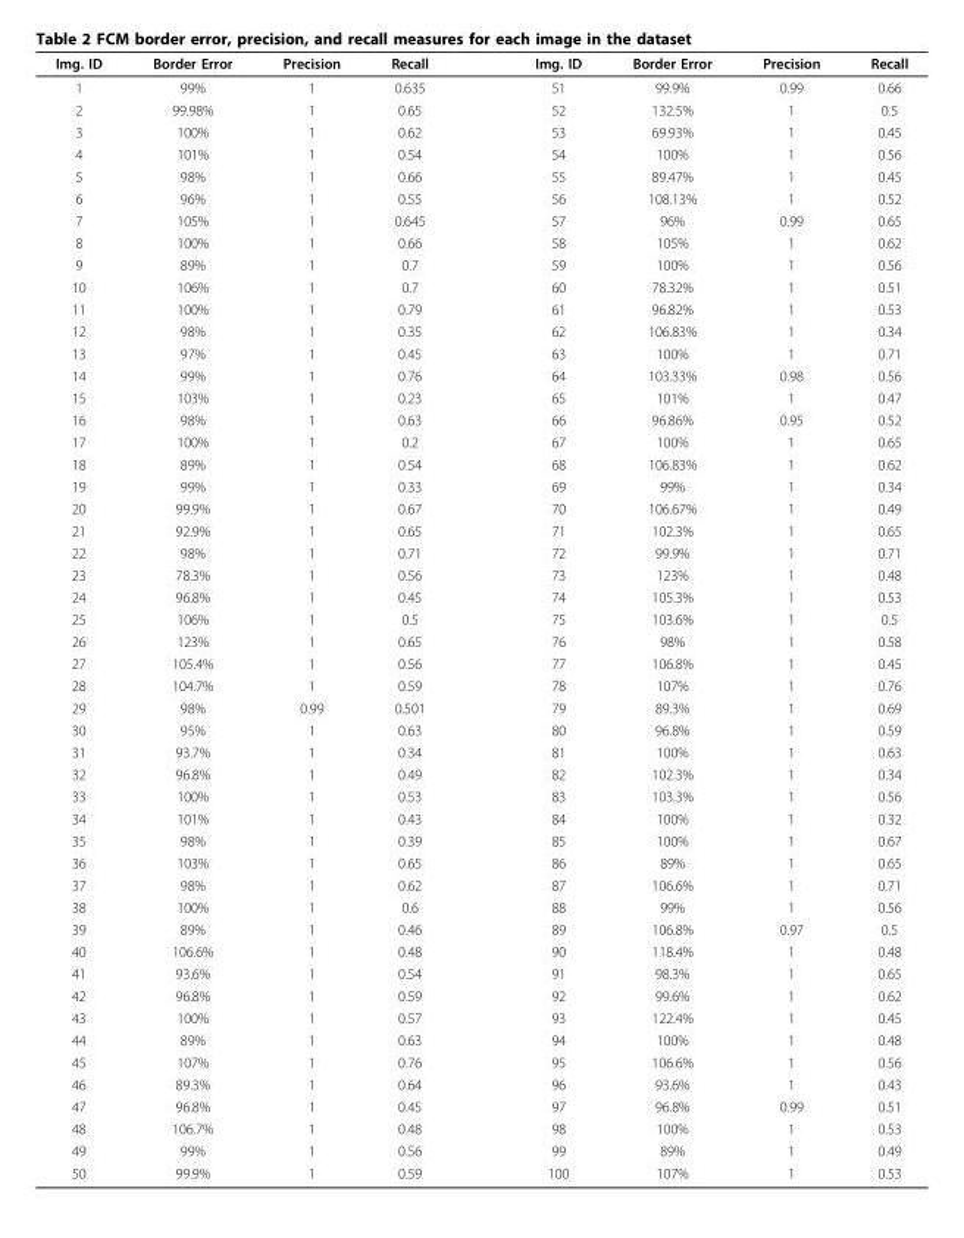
<table><thead><tr><td>Img. ID</td><td>Border Error</td><td>Precision</td><td>Recall</td><td>Img. ID</td><td>Border Error</td><td>Precision</td><td>Recall</td></tr></thead><tbody><tr><td>1</td><td>99%</td><td>1</td><td>0.635</td><td>51</td><td>99.9%</td><td>0.99</td><td>0.66</td></tr><tr><td>2</td><td>99.98%</td><td>1</td><td>0.65</td><td>52</td><td>132.5%</td><td>1</td><td>0.5</td></tr><tr><td>3</td><td>100%</td><td>1</td><td>0.62</td><td>53</td><td>69.93%</td><td>1</td><td>0.45</td></tr><tr><td>4</td><td>101%</td><td>1</td><td>0.54</td><td>54</td><td>100%</td><td>1</td><td>0.56</td></tr><tr><td>5</td><td>98%</td><td>1</td><td>0.66</td><td>55</td><td>89.47%</td><td>1</td><td>0.45</td></tr><tr><td>6</td><td>96%</td><td>1</td><td>0.55</td><td>56</td><td>108.13%</td><td>1</td><td>0.52</td></tr><tr><td>7</td><td>105%</td><td>1</td><td>0.645</td><td>57</td><td>96%</td><td>0.99</td><td>0.65</td></tr><tr><td>8</td><td>100%</td><td>1</td><td>0.66</td><td>58</td><td>105%</td><td>1</td><td>0.62</td></tr><tr><td>9</td><td>89%</td><td>1</td><td>0.7</td><td>59</td><td>100%</td><td>1</td><td>0.56</td></tr><tr><td>10</td><td>106%</td><td>1</td><td>0.7</td><td>60</td><td>78.32%</td><td>1</td><td>0.51</td></tr><tr><td>11</td><td>100%</td><td>1</td><td>0.79</td><td>61</td><td>96.82%</td><td>1</td><td>0.53</td></tr><tr><td>12</td><td>98%</td><td>1</td><td>0.35</td><td>62</td><td>106.83%</td><td>1</td><td>0.34</td></tr><tr><td>13</td><td>97%</td><td>1</td><td>0.45</td><td>63</td><td>100%</td><td>1</td><td>0.71</td></tr><tr><td>14</td><td>99%</td><td>1</td><td>0.76</td><td>64</td><td>103.33%</td><td>0.98</td><td>0.56</td></tr><tr><td>15</td><td>103%</td><td>1</td><td>0.23</td><td>65</td><td>101%</td><td>1</td><td>0.47</td></tr><tr><td>16</td><td>98%</td><td>1</td><td>0.63</td><td>66</td><td>96.86%</td><td>0.95</td><td>0.52</td></tr><tr><td>17</td><td>100%</td><td>1</td><td>0.2</td><td>67</td><td>100%</td><td>1</td><td>0.65</td></tr><tr><td>18</td><td>89%</td><td>1</td><td>0.54</td><td>68</td><td>106.83%</td><td>1</td><td>0.62</td></tr><tr><td>19</td><td>99%</td><td>1</td><td>0.33</td><td>69</td><td>99%</td><td>1</td><td>0.34</td></tr><tr><td>20</td><td>99.9%</td><td>1</td><td>0.67</td><td>70</td><td>106.67%</td><td>1</td><td>0.49</td></tr><tr><td>21</td><td>92.9%</td><td>1</td><td>0.65</td><td>71</td><td>102.3%</td><td>1</td><td>0.65</td></tr><tr><td>22</td><td>98%</td><td>1</td><td>0.71</td><td>72</td><td>99.9%</td><td>1</td><td>0.71</td></tr><tr><td>23</td><td>78.3%</td><td>1</td><td>0.56</td><td>73</td><td>123%</td><td>1</td><td>0.48</td></tr><tr><td>24</td><td>96.8%</td><td>1</td><td>0.45</td><td>74</td><td>105.3%</td><td>1</td><td>0.53</td></tr><tr><td>25</td><td>106%</td><td>1</td><td>0.5</td><td>75</td><td>103.6%</td><td>1</td><td>0.5</td></tr><tr><td>26</td><td>123%</td><td>1</td><td>0.65</td><td>76</td><td>98%</td><td>1</td><td>0.58</td></tr><tr><td>27</td><td>105.4%</td><td>1</td><td>0.56</td><td>77</td><td>106.8%</td><td>1</td><td>0.45</td></tr><tr><td>28</td><td>104.7%</td><td>1</td><td>0.59</td><td>78</td><td>107%</td><td>1</td><td>0.76</td></tr><tr><td>29</td><td>98%</td><td>0.99</td><td>0.501</td><td>79</td><td>89.3%</td><td>1</td><td>0.69</td></tr><tr><td>30</td><td>95%</td><td>1</td><td>0.63</td><td>80</td><td>96.8%</td><td>1</td><td>0.59</td></tr><tr><td>31</td><td>93.7%</td><td>1</td><td>0.34</td><td>81</td><td>100%</td><td>1</td><td>0.63</td></tr><tr><td>32</td><td>96.8%</td><td>1</td><td>0.49</td><td>82</td><td>102.3%</td><td>1</td><td>0.34</td></tr><tr><td>33</td><td>100%</td><td>1</td><td>0.53</td><td>83</td><td>103.3%</td><td>1</td><td>0.56</td></tr><tr><td>34</td><td>101%</td><td>1</td><td>0.43</td><td>84</td><td>100%</td><td>1</td><td>0.32</td></tr><tr><td>35</td><td>98%</td><td>1</td><td>0.39</td><td>85</td><td>100%</td><td>1</td><td>0.67</td></tr><tr><td>36</td><td>103%</td><td>1</td><td>0.65</td><td>86</td><td>89%</td><td>1</td><td>0.65</td></tr><tr><td>37</td><td>98%</td><td>1</td><td>0.62</td><td>87</td><td>106.6%</td><td>1</td><td>0.71</td></tr><tr><td>38</td><td>100%</td><td>1</td><td>0.6</td><td>88</td><td>99%</td><td>1</td><td>0.56</td></tr><tr><td>39</td><td>89%</td><td>1</td><td>0.46</td><td>89</td><td>106.8%</td><td>0.97</td><td>0.5</td></tr><tr><td>40</td><td>106.6%</td><td>1</td><td>0.48</td><td>90</td><td>118.4%</td><td>1</td><td>0.48</td></tr><tr><td>41</td><td>93.6%</td><td>1</td><td>0.54</td><td>91</td><td>98.3%</td><td>1</td><td>0.65</td></tr><tr><td>42</td><td>96.8%</td><td>1</td><td>0.59</td><td>92</td><td>99.6%</td><td>1</td><td>0.62</td></tr><tr><td>43</td><td>100%</td><td>1</td><td>0.57</td><td>93</td><td>122.4%</td><td>1</td><td>0.45</td></tr><tr><td>44</td><td>89%</td><td>1</td><td>0.63</td><td>94</td><td>100%</td><td>1</td><td>0.48</td></tr><tr><td>45</td><td>107%</td><td>1</td><td>0.76</td><td>95</td><td>106.6%</td><td>1</td><td>0.56</td></tr><tr><td>46</td><td>89.3%</td><td>1</td><td>0.64</td><td>96</td><td>93.6%</td><td>1</td><td>0.43</td></tr><tr><td>47</td><td>96.8%</td><td>1</td><td>0.45</td><td>97</td><td>96.8%</td><td>0.99</td><td>0.51</td></tr><tr><td>48</td><td>106.7%</td><td>1</td><td>0.48</td><td>98</td><td>100%</td><td>1</td><td>0.53</td></tr><tr><td>49</td><td>99%</td><td>1</td><td>0.56</td><td>99</td><td>89%</td><td>1</td><td>0.49</td></tr><tr><td>50</td><td>99.9%</td><td>1</td><td>0.59</td><td>100</td><td>107%</td><td>1</td><td>0.53</td></tr></tbody></table>